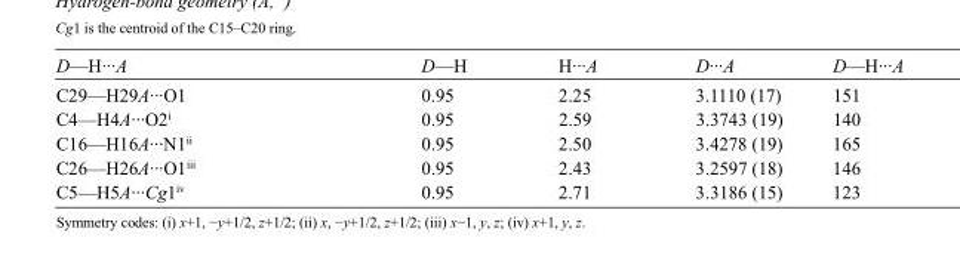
<table><tbody><tr><td>D—H···A</td><td>D—H</td><td>H···A</td><td>D···A</td><td>D—H···A</td></tr><tr><td>C29—H29A···O1</td><td>0.95</td><td>2.25</td><td>3.1110 (17)</td><td>151</td></tr><tr><td>C4—H4A···O2<sup>i</sup></td><td>0.95</td><td>2.59</td><td>3.3743 (19)</td><td>140</td></tr><tr><td>C16—H16A···N1<sup>ii</sup></td><td>0.95</td><td>2.50</td><td>3.4278 (19)</td><td>165</td></tr><tr><td>C26—H26A···O1<sup>iii</sup></td><td>0.95</td><td>2.43</td><td>3.2597 (18)</td><td>146</td></tr><tr><td>C5—H5A···Cg1<sup>iv</sup></td><td>0.95</td><td>2.71</td><td>3.3186 (15)</td><td>123</td></tr></tbody></table>